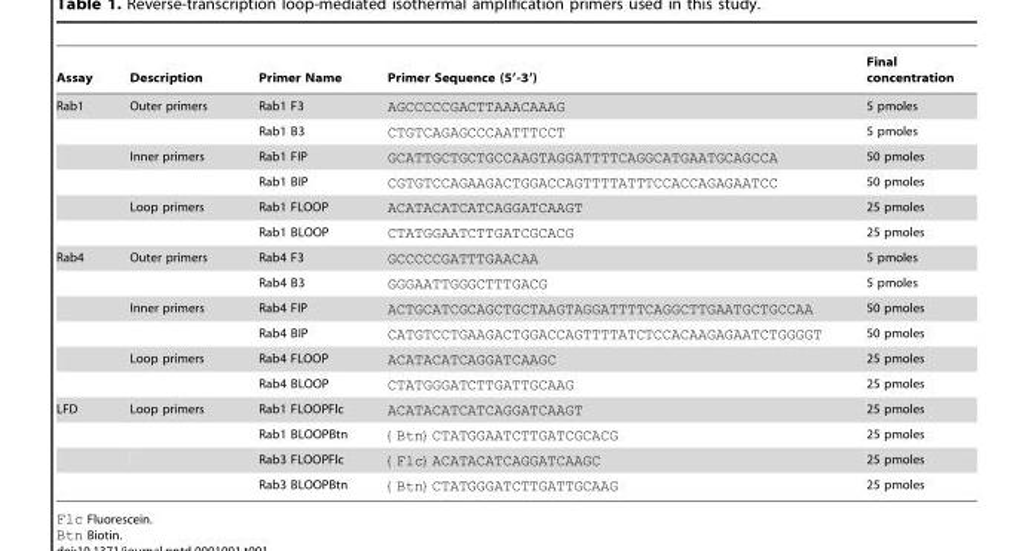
<table><thead><tr><td>Assay</td><td>Description</td><td>Primer Name</td><td>Primer Sequence (5′-3′)</td><td>Final concentration</td></tr></thead><tbody><tr><td rowspan="6">Rab1</td><td>Outer primers</td><td>Rab1 F3</td><td>AGCCCCCGACTTAAACAAAG</td><td>5 pmoles</td></tr><tr><td></td><td>Rab1 B3</td><td>CTGTCAGAGCCCAATTTCCT</td><td>5 pmoles</td></tr><tr><td>Inner primers</td><td>Rab1 FIP</td><td>GCATTGCTGCTGCCAAGTAGGATTTTCAGGCATGAATGCAGCCA</td><td>50 pmoles</td></tr><tr><td></td><td>Rab1 BIP</td><td>CGTGTCCAGAAGACTGGACCAGTTTTATTTCCACCAGAGAATCC</td><td>50 pmoles</td></tr><tr><td>Loop primers</td><td>Rab1 FLOOP</td><td>ACATACATCATCAGGATCAAGT</td><td>25 pmoles</td></tr><tr><td></td><td>Rab1 BLOOP</td><td>CTATGGAATCTTGATCGCACG</td><td>25 pmoles</td></tr><tr><td rowspan="6">Rab4</td><td>Outer primers</td><td>Rab4 F3</td><td>GCCCCCGATTTGAACAA</td><td>5 pmoles</td></tr><tr><td></td><td>Rab4 B3</td><td>GGGAATTGGGCTTTGACG</td><td>5 pmoles</td></tr><tr><td>Inner primers</td><td>Rab4 FIP</td><td>ACTGCATCGCAGCTGCTAAGTAGGATTTTCAGGCTTGAATGCTGCCAA</td><td>50 pmoles</td></tr><tr><td></td><td>Rab4 BIP</td><td>CATGTCCTGAAGACTGGACCAGTTTTATCTCCACAAGAGAATCTGGGGT</td><td>50 pmoles</td></tr><tr><td>Loop primers</td><td>Rab4 FLOOP</td><td>ACATACATCAGGATCAAGC</td><td>25 pmoles</td></tr><tr><td></td><td>Rab4 BLOOP</td><td>CTATGGGATCTTGATTGCAAG</td><td>25 pmoles</td></tr><tr><td rowspan="4">LFD</td><td>Loop primers</td><td>Rab1 FLOOPFlc</td><td>ACATACATCATCAGGATCAAGT</td><td>25 pmoles</td></tr><tr><td></td><td>Rab1 BLOOPBtn</td><td>{Btn}CTATGGAATCTTGATCGCACG</td><td>25 pmoles</td></tr><tr><td></td><td>Rab3 FLOOPFlc</td><td>{Flc}ACATACATCAGGATCAAGC</td><td>25 pmoles</td></tr><tr><td></td><td>Rab3 BLOOPBtn</td><td>{Btn}CTATGGGATCTTGATTGCAAG</td><td>25 pmoles</td></tr></tbody></table>